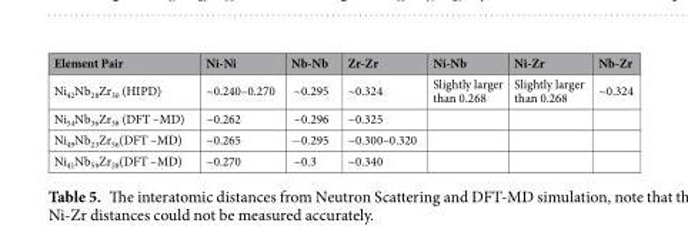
<table><thead><tr><td>Element Pair</td><td>Ni-Ni</td><td>Nb-Nb</td><td>Zr-Zr</td><td>Ni-Nb</td><td>Ni-Zr</td><td>Nb-Zr</td></tr></thead><tbody><tr><td>Ni<sub>42</sub>Nb<sub>28</sub>Zr<sub>30</sub> (HIPD)</td><td>~0.240–0.270</td><td>~0.295</td><td>~0.324</td><td>Slightly larger than 0.268</td><td>Slightly larger than 0.268</td><td>~0.324</td></tr><tr><td>Ni<sub>54</sub>Nb<sub>36</sub>Zr<sub>38</sub> (DFT –MD)</td><td>~0.262</td><td>~0.296</td><td>~0.325</td><td></td><td></td><td></td></tr><tr><td>Ni<sub>49</sub>Nb<sub>23</sub>Zr<sub>56</sub>(DFT –MD)</td><td>~0.265</td><td>−0.295</td><td>~0.300–0.320</td><td></td><td></td><td></td></tr><tr><td>Ni<sub>41</sub>Nb<sub>59</sub>Zr<sub>28</sub>(DFT –MD)</td><td>~0.270</td><td>~0.3</td><td>~0.340</td><td></td><td></td><td></td></tr></tbody></table>